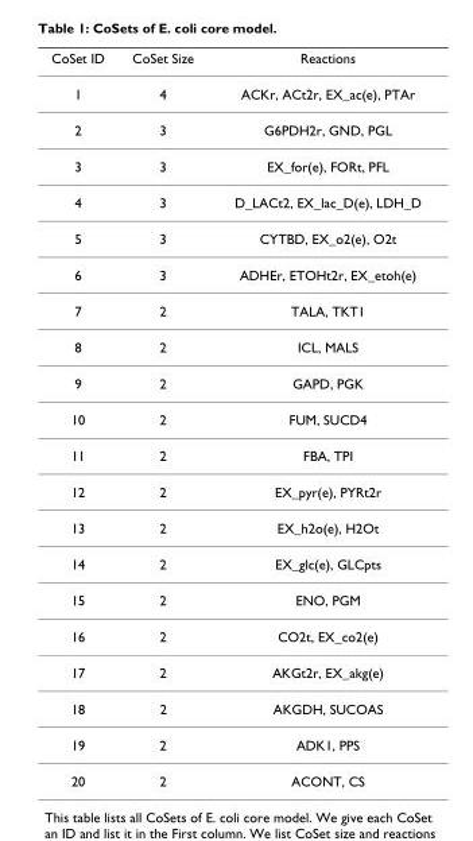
<table><thead><tr><td>CoSet ID</td><td>CoSet Size</td><td>Reactions</td></tr></thead><tbody><tr><td>1</td><td>4</td><td>ACKr, ACt2r, EX_ac(e), PTAr</td></tr><tr><td>2</td><td>3</td><td>G6PDH2r, GND, PGL</td></tr><tr><td>3</td><td>3</td><td>EX_for(e), FORt, PFL</td></tr><tr><td>4</td><td>3</td><td>D_LACt2, EX_lac_D(e), LDH_D</td></tr><tr><td>5</td><td>3</td><td>CYTBD, EX_o2(e), O2t</td></tr><tr><td>6</td><td>3</td><td>ADHEr, ETOHt2r, EX_etoh(e)</td></tr><tr><td>7</td><td>2</td><td>TALA, TKT1</td></tr><tr><td>8</td><td>2</td><td>ICL, MALS</td></tr><tr><td>9</td><td>2</td><td>GAPD, PGK</td></tr><tr><td>10</td><td>2</td><td>FUM, SUCD4</td></tr><tr><td>11</td><td>2</td><td>FBA, TPI</td></tr><tr><td>12</td><td>2</td><td>EX_pyr(e), PYRt2r</td></tr><tr><td>13</td><td>2</td><td>EX_h2o(e), H2Ot</td></tr><tr><td>14</td><td>2</td><td>EX_glc(e), GLCpts</td></tr><tr><td>15</td><td>2</td><td>ENO, PGM</td></tr><tr><td>16</td><td>2</td><td>CO2t, EX_co2(e)</td></tr><tr><td>17</td><td>2</td><td>AKGt2r, EX_akg(e)</td></tr><tr><td>18</td><td>2</td><td>AKGDH, SUCOAS</td></tr><tr><td>19</td><td>2</td><td>ADK1, PPS</td></tr><tr><td>20</td><td>2</td><td>ACONT, CS</td></tr></tbody></table>